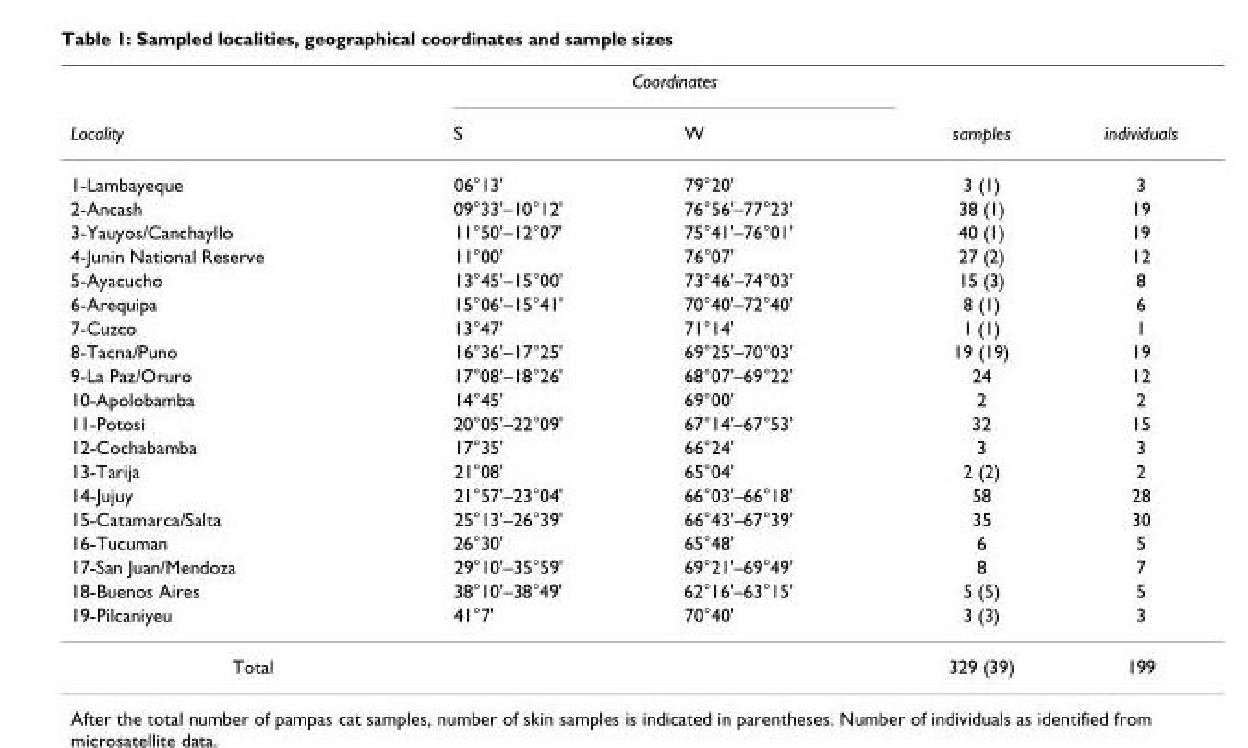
<table><thead><tr><td rowspan="2">Locality</td><td colspan="2">Coordinates</td><td rowspan="2">samples</td><td rowspan="2">individuals</td></tr><tr><td>S</td><td>W</td></tr></thead><tbody><tr><td>1-Lambayeque</td><td>06°13&#x27;</td><td>79°20&#x27;</td><td>3 (1)</td><td>3</td></tr><tr><td>2-Ancash</td><td>09°33&#x27;–10°12&#x27;</td><td>76°56&#x27;–77°23&#x27;</td><td>38 (1)</td><td>19</td></tr><tr><td>3-Yauyos/Canchayllo</td><td>11°50&#x27;–12°07&#x27;</td><td>75°41&#x27;–76°01&#x27;</td><td>40 (1)</td><td>19</td></tr><tr><td>4-Junin National Reserve</td><td>11°00&#x27;</td><td>76°07&#x27;</td><td>27 (2)</td><td>12</td></tr><tr><td>5-Ayacucho</td><td>13°45&#x27;–15°00&#x27;</td><td>73°46&#x27;–74°03&#x27;</td><td>15 (3)</td><td>8</td></tr><tr><td>6-Arequipa</td><td>15°06&#x27;–15°41&#x27;</td><td>70°40&#x27;–72°40&#x27;</td><td>8 (1)</td><td>6</td></tr><tr><td>7-Cuzco</td><td>13°47&#x27;</td><td>71°14&#x27;</td><td>1 (1)</td><td>1</td></tr><tr><td>8-Tacna/Puno</td><td>16°36&#x27;–17°25&#x27;</td><td>69°25&#x27;–70°03&#x27;</td><td>19 (19)</td><td>19</td></tr><tr><td>9-La Paz/Oruro</td><td>17°08&#x27;–18°26&#x27;</td><td>68°07&#x27;–69°22&#x27;</td><td>24</td><td>12</td></tr><tr><td>10-Apolobamba</td><td>14°45&#x27;</td><td>69°00&#x27;</td><td>2</td><td>2</td></tr><tr><td>11-Potosi</td><td>20°05&#x27;–22°09&#x27;</td><td>67°14&#x27;–67°53&#x27;</td><td>32</td><td>15</td></tr><tr><td>12-Cochabamba</td><td>17°35&#x27;</td><td>66°24&#x27;</td><td>3</td><td>3</td></tr><tr><td>13-Tarija</td><td>21°08&#x27;</td><td>65°04&#x27;</td><td>2 (2)</td><td>2</td></tr><tr><td>14-Jujuy</td><td>21°57&#x27;–23°04&#x27;</td><td>66°03&#x27;–66°18&#x27;</td><td>58</td><td>28</td></tr><tr><td>15-Catamarca/Salta</td><td>25°13&#x27;–26°39&#x27;</td><td>66°43&#x27;–67°39&#x27;</td><td>35</td><td>30</td></tr><tr><td>16-Tucuman</td><td>26°30&#x27;</td><td>65°48&#x27;</td><td>6</td><td>5</td></tr><tr><td>17-San Juan/Mendoza</td><td>29°10&#x27;–35°59&#x27;</td><td>69°21&#x27;–69°49&#x27;</td><td>8</td><td>7</td></tr><tr><td>18-Buenos Aires</td><td>38°10&#x27;–38°49&#x27;</td><td>62°16&#x27;–63°15&#x27;</td><td>5 (5)</td><td>5</td></tr><tr><td>19-Pilcaniyeu</td><td>41°7&#x27;</td><td>70°40&#x27;</td><td>3 (3)</td><td>3</td></tr><tr><td>Total</td><td></td><td></td><td>329 (39)</td><td>199</td></tr></tbody></table>